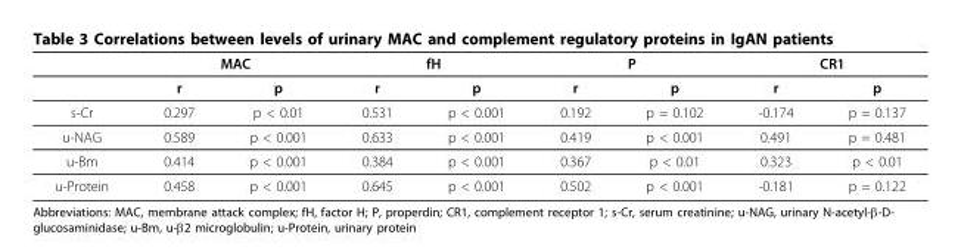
<table><thead><tr><td rowspan="2"></td><td colspan="2">MAC</td><td colspan="2">fH</td><td colspan="2">P</td><td colspan="2">CR1</td></tr><tr><td>r</td><td>p</td><td>r</td><td>p</td><td>r</td><td>p</td><td>r</td><td>p</td></tr></thead><tbody><tr><td>s-Cr</td><td>0.297</td><td>p &lt; 0.01</td><td>0.531</td><td>p &lt; 0.001</td><td>0.192</td><td>p = 0.102</td><td>-0.174</td><td>p = 0.137</td></tr><tr><td>u-NAG</td><td>0.589</td><td>p &lt; 0.001</td><td>0.633</td><td>p &lt; 0.001</td><td>0.419</td><td>p &lt; 0.001</td><td>0.491</td><td>p = 0.481</td></tr><tr><td>u-Bm</td><td>0.414</td><td>p &lt; 0.001</td><td>0.384</td><td>p &lt; 0.001</td><td>0.367</td><td>p &lt; 0.01</td><td>0.323</td><td>p &lt; 0.01</td></tr><tr><td>u-Protein</td><td>0.458</td><td>p &lt; 0.001</td><td>0.645</td><td>p &lt; 0.001</td><td>0.502</td><td>p &lt; 0.001</td><td>-0.181</td><td>p = 0.122</td></tr></tbody></table>